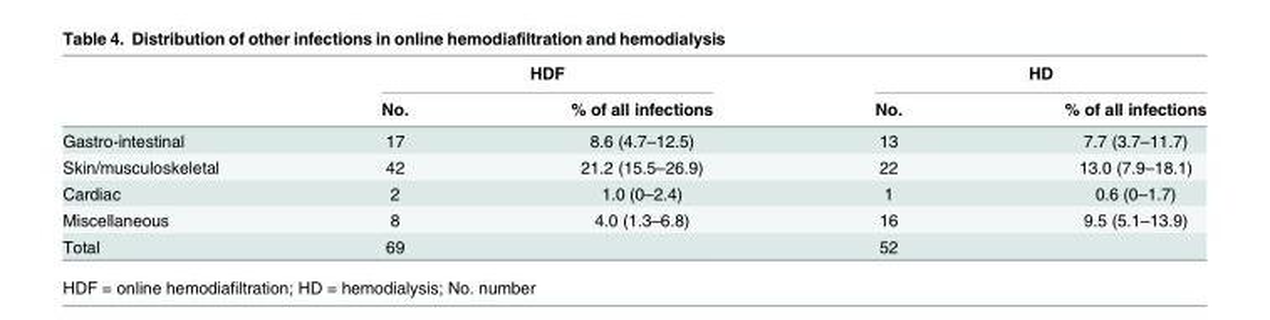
<table><thead><tr><td rowspan="2"></td><td colspan="2">HDF</td><td colspan="2">HD</td></tr><tr><td>No.</td><td>% of all infections</td><td>No.</td><td>% of all infections</td></tr></thead><tbody><tr><td>Gastro-intestinal</td><td>17</td><td>8.6 (4.7–12.5)</td><td>13</td><td>7.7 (3.7–11.7)</td></tr><tr><td>Skin/musculoskeletal</td><td>42</td><td>21.2 (15.5–26.9)</td><td>22</td><td>13.0 (7.9–18.1)</td></tr><tr><td>Cardiac</td><td>2</td><td>1.0 (0–2.4)</td><td>1</td><td>0.6 (0–1.7)</td></tr><tr><td>Miscellaneous</td><td>8</td><td>4.0 (1.3–6.8)</td><td>16</td><td>9.5 (5.1–13.9)</td></tr><tr><td>Total</td><td>69</td><td></td><td>52</td><td></td></tr></tbody></table>